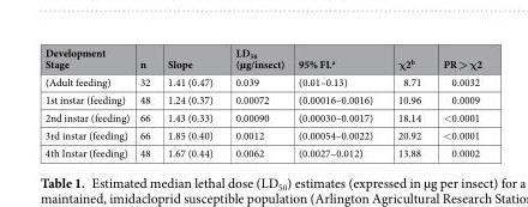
<table><thead><tr><td>Development Stage</td><td>n</td><td>Slope</td><td>LD<sub>50</sub> (µg/insect)</td><td>95% FL<sup>a</sup></td><td>χ2<sup>b</sup></td><td>PR &gt; χ2</td></tr></thead><tbody><tr><td>(Adult feeding)</td><td>32</td><td>1.41 (0.47)</td><td>0.039</td><td>(0.01–0.13)</td><td>8.71</td><td>0.0032</td></tr><tr><td>1st instar (feeding)</td><td>48</td><td>1.24 (0.37)</td><td>0.00072</td><td>(0.00016–0.0016)</td><td>10.96</td><td>0.0009</td></tr><tr><td>2nd instar (feeding)</td><td>66</td><td>1.43 (0.33)</td><td>0.00090</td><td>(0.00030–0.0017)</td><td>18.14</td><td>&lt;0.0001</td></tr><tr><td>3rd instar (feeding)</td><td>66</td><td>1.85 (0.40)</td><td>0.0012</td><td>(0.00054–0.0022)</td><td>20.92</td><td>&lt;0.0001</td></tr><tr><td>4th Instar (feeding)</td><td>48</td><td>1.67 (0.44)</td><td>0.0062</td><td>(0.0027–0.012)</td><td>13.88</td><td>0.0002</td></tr></tbody></table>